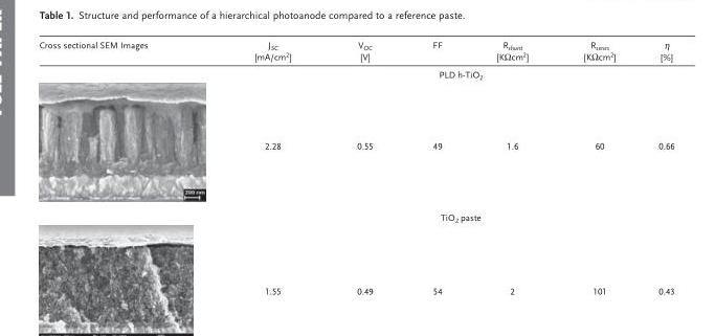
<table><thead><tr><td>Cross sectional SEM Images</td><td>J <sub>SC</sub> [mA/cm <sup>2</sup> ]</td><td>V <sub>OC</sub> [V]</td><td>FF</td><td>R <sub>shunt</sub> [KΩcm <sup>2</sup> ]</td><td>R <sub>series</sub> [KΩcm <sup>2</sup> ]</td><td>η [%]</td></tr></thead><tbody><tr><td></td><td colspan="6">PLD h-TiO <sub>2</sub></td></tr><tr><td></td><td>2.28</td><td>0.55</td><td>49</td><td>1.6</td><td>60</td><td>0.66</td></tr><tr><td></td><td colspan="6">TiO <sub>2</sub> paste</td></tr><tr><td></td><td>1.55</td><td>0.49</td><td>54</td><td>2</td><td>101</td><td>0.43</td></tr></tbody></table>